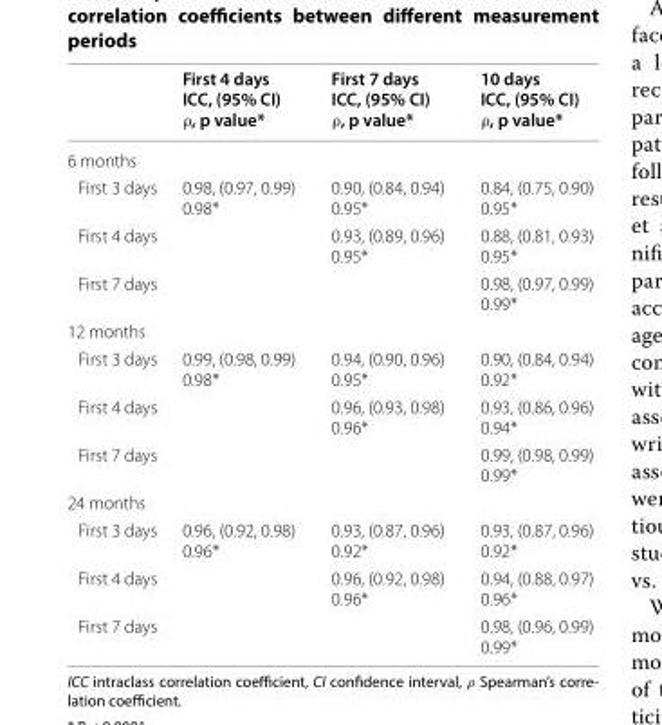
<table><thead><tr><td></td><td>First 4 days ICC, (95% CI) ρ, p value*</td><td>First 7 days ICC, (95% CI) ρ, p value*</td><td>10 days ICC, (95% CI) ρ, p value*</td></tr></thead><tbody><tr><td colspan="4">6 months</td></tr><tr><td>First 3 days</td><td>0.98, (0.97, 0.99) 0.98*</td><td>0.90, (0.84, 0.94) 0.95*</td><td>0.84, (0.75, 0.90) 0.95*</td></tr><tr><td>First 4 days</td><td></td><td>0.93, (0.89, 0.96) 0.95*</td><td>0.88, (0.81, 0.93) 0.95*</td></tr><tr><td>First 7 days</td><td></td><td></td><td>0.98, (0.97, 0.99) 0.99*</td></tr><tr><td colspan="4">12 months</td></tr><tr><td>First 3 days</td><td>0.99, (0.98, 0.99) 0.98*</td><td>0.94, (0.90, 0.96) 0.95*</td><td>0.90, (0.84, 0.94) 0.92*</td></tr><tr><td>First 4 days</td><td></td><td>0.96, (0.93, 0.98) 0.96*</td><td>0.93, (0.86, 0.96) 0.94*</td></tr><tr><td>First 7 days</td><td></td><td></td><td>0.99, (0.98, 0.99) 0.99*</td></tr><tr><td colspan="4">24 months</td></tr><tr><td>First 3 days</td><td>0.96, (0.92, 0.98) 0.96*</td><td>0.93, (0.87, 0.96) 0.92*</td><td>0.93, (0.87, 0.96) 0.92*</td></tr><tr><td>First 4 days</td><td></td><td>0.96, (0.92, 0.98) 0.96*</td><td>0.94, (0.88, 0.97) 0.96*</td></tr><tr><td>First 7 days</td><td></td><td></td><td>0.98, (0.96, 0.99) 0.99*</td></tr></tbody></table>